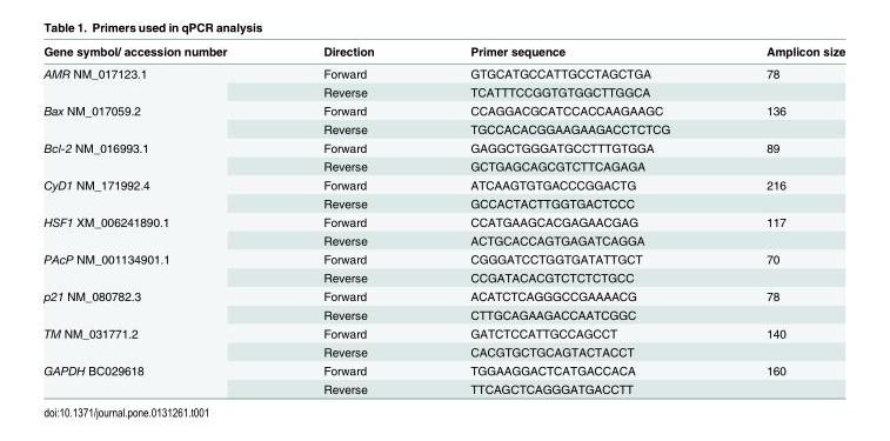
<table><thead><tr><td>Gene symbol/ accession number</td><td>Direction</td><td>Primer sequence</td><td>Amplicon size</td></tr></thead><tbody><tr><td rowspan="2">AMR NM_017123.1</td><td>Forward</td><td>GTGCATGCCATTGCCTAGCTGA</td><td>78</td></tr><tr><td>Reverse</td><td>TCATTTCCGGTGTGGCTTGGCA</td><td></td></tr><tr><td rowspan="2">Bax NM_017059.2</td><td>Forward</td><td>CCAGGACGCATCCACCAAGAAGC</td><td>136</td></tr><tr><td>Reverse</td><td>TGCCACACGGAAGAAGACCTCTCG</td><td></td></tr><tr><td rowspan="2">Bcl-2 NM_016993.1</td><td>Forward</td><td>GAGGCTGGGATGCCTTTGTGGA</td><td>89</td></tr><tr><td>Reverse</td><td>GCTGAGCAGCGTCTTCAGAGA</td><td></td></tr><tr><td rowspan="2">CyD1 NM_171992.4</td><td>Forward</td><td>ATCAAGTGTGACCCGGACTG</td><td>216</td></tr><tr><td>Reverse</td><td>GCCACTACTTGGTGACTCCC</td><td></td></tr><tr><td rowspan="2">HSF1 XM_006241890.1</td><td>Forward</td><td>CCATGAAGCACGAGAACGAG</td><td>117</td></tr><tr><td>Reverse</td><td>ACTGCACCAGTGAGATCAGGA</td><td></td></tr><tr><td rowspan="2">PAcP NM_001134901.1</td><td>Forward</td><td>CGGGATCCTGGTGATATTGCT</td><td>70</td></tr><tr><td>Reverse</td><td>CCGATACACGTCTCTCTGCC</td><td></td></tr><tr><td rowspan="2">p21 NM_080782.3</td><td>Forward</td><td>ACATCTCAGGGCCGAAAACG</td><td>78</td></tr><tr><td>Reverse</td><td>CTTGCAGAAGACCAATCGGC</td><td></td></tr><tr><td rowspan="2">TM NM_031771.2</td><td>Forward</td><td>GATCTCCATTGCCAGCCT</td><td>140</td></tr><tr><td>Reverse</td><td>CACGTGCTGCAGTACTACCT</td><td></td></tr><tr><td rowspan="2">GAPDH BC029618</td><td>Forward</td><td>TGGAAGGACTCATGACCACA</td><td>160</td></tr><tr><td>Reverse</td><td>TTCAGCTCAGGGATGACCTT</td><td></td></tr></tbody></table>